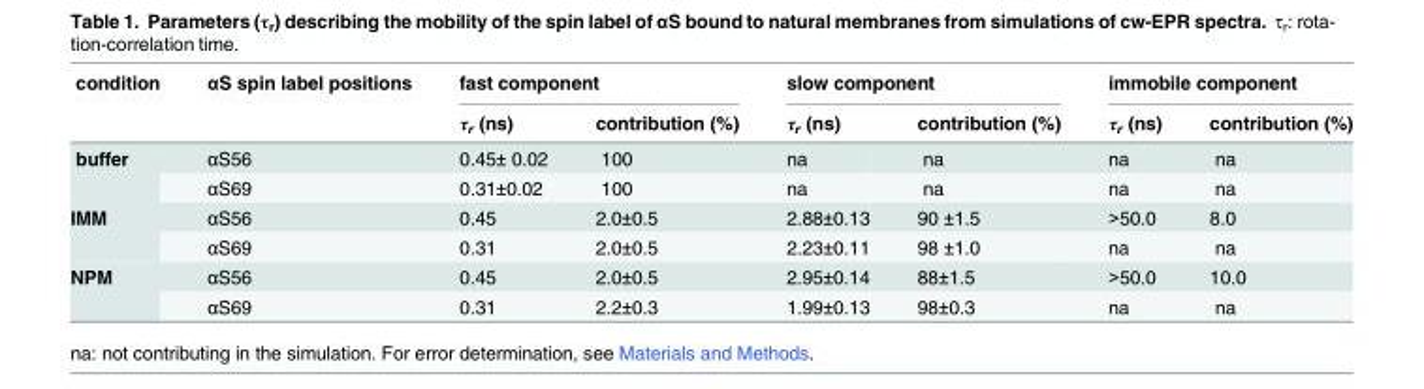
<table><thead><tr><td rowspan="2">condition</td><td rowspan="2">αS spin label positions</td><td colspan="2">fast component</td><td colspan="2">slow component</td><td colspan="2">immobile component</td></tr><tr><td>τ<sub>r</sub> (ns)</td><td>contribution (%)</td><td>τ<sub>r</sub> (ns)</td><td>contribution (%)</td><td>τ<sub>r</sub> (ns)</td><td>contribution (%)</td></tr></thead><tbody><tr><td rowspan="2">buffer</td><td>αS56</td><td>0.45± 0.02</td><td>100</td><td>na</td><td>na</td><td>na</td><td>na</td></tr><tr><td>αS69</td><td>0.31±0.02</td><td>100</td><td>na</td><td>na</td><td>na</td><td>na</td></tr><tr><td rowspan="2">IMM</td><td>αS56</td><td>0.45</td><td>2.0±0.5</td><td>2.88±0.13</td><td>90 ±1.5</td><td>&gt;50.0</td><td>8.0</td></tr><tr><td>αS69</td><td>0.31</td><td>2.0±0.5</td><td>2.23±0.11</td><td>98 ±1.0</td><td>na</td><td>na</td></tr><tr><td rowspan="2">NPM</td><td>αS56</td><td>0.45</td><td>2.0±0.5</td><td>2.95±0.14</td><td>88±1.5</td><td>&gt;50.0</td><td>10.0</td></tr><tr><td>αS69</td><td>0.31</td><td>2.2±0.3</td><td>1.99±0.13</td><td>98±0.3</td><td>na</td><td>na</td></tr></tbody></table>